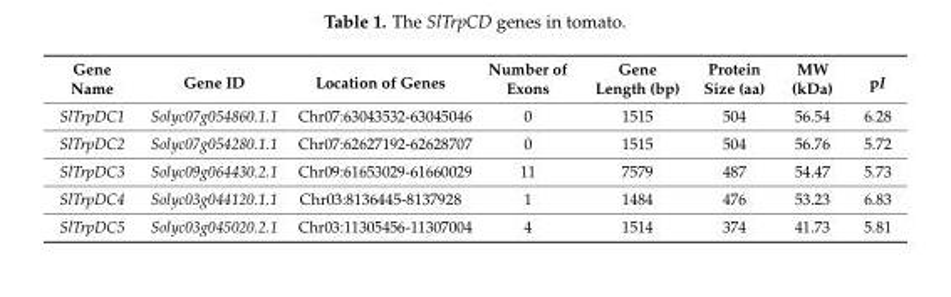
<table><thead><tr><td>Gene Name</td><td>Gene ID</td><td>Location of Genes</td><td>Number of Exons</td><td>Gene Length (bp)</td><td>Protein Size (aa)</td><td>MW (kDa)</td><td>pI</td></tr></thead><tbody><tr><td>SlTrpDC1</td><td>Solyc07g054860.1.1</td><td>Chr07:63043532-63045046</td><td>0</td><td>1515</td><td>504</td><td>56.54</td><td>6.28</td></tr><tr><td>SlTrpDC2</td><td>Solyc07g054280.1.1</td><td>Chr07:62627192-62628707</td><td>0</td><td>1515</td><td>504</td><td>56.76</td><td>5.72</td></tr><tr><td>SlTrpDC3</td><td>Solyc09g064430.2.1</td><td>Chr09:61653029-61660029</td><td>11</td><td>7579</td><td>487</td><td>54.47</td><td>5.73</td></tr><tr><td>SlTrpDC4</td><td>Solyc03g044120.1.1</td><td>Chr03:8136445-8137928</td><td>1</td><td>1484</td><td>476</td><td>53.23</td><td>6.83</td></tr><tr><td>SlTrpDC5</td><td>Solyc03g045020.2.1</td><td>Chr03:11305456-11307004</td><td>4</td><td>1514</td><td>374</td><td>41.73</td><td>5.81</td></tr></tbody></table>